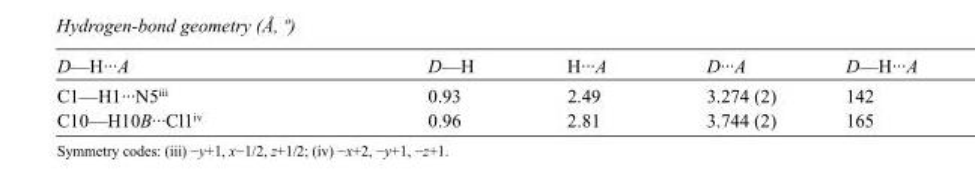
<table><tbody><tr><td>D—H···A</td><td>D—H</td><td>H···A</td><td>D···A</td><td>D—H···A</td></tr><tr><td>C1—H1···N5<sup>iii</sup></td><td>0.93</td><td>2.49</td><td>3.274 (2)</td><td>142</td></tr><tr><td>C10—H10B···Cl1<sup>iv</sup></td><td>0.96</td><td>2.81</td><td>3.744 (2)</td><td>165</td></tr></tbody></table>